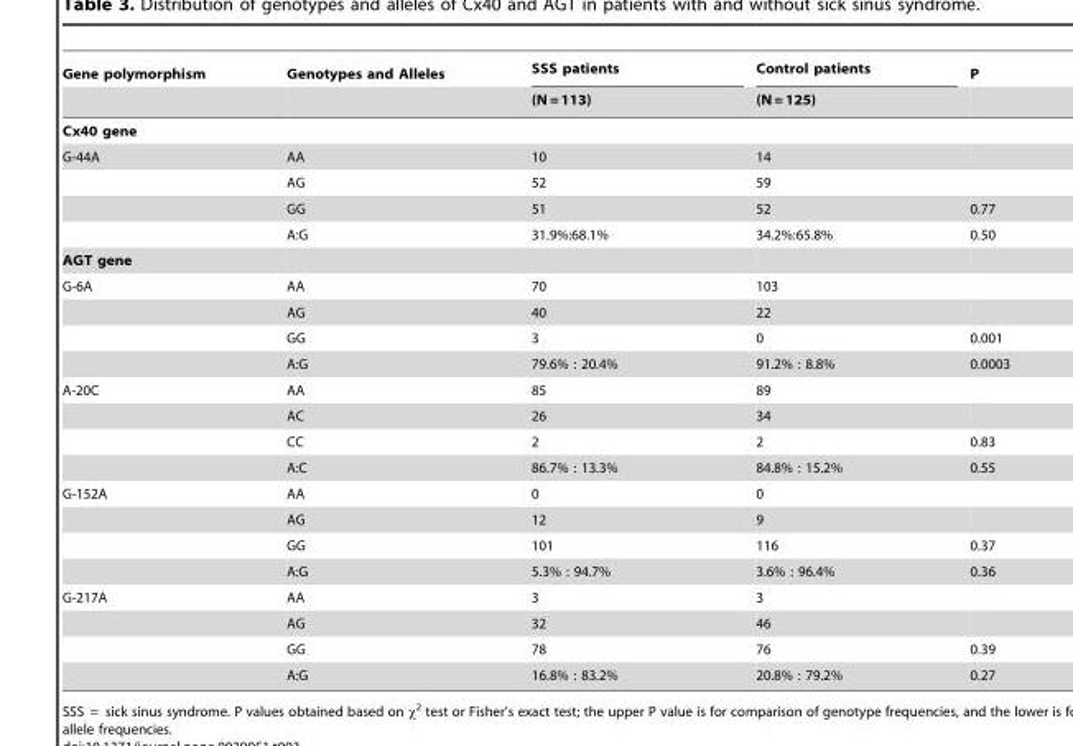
<table><thead><tr><td rowspan="2">Gene polymorphism</td><td rowspan="2">Genotypes and Alleles</td><td rowspan="2">SSS patients (N = 113)</td><td rowspan="2">Control patients (N = 125)</td><td rowspan="2">P</td></tr><tr></tr></thead><tbody><tr><td colspan="5">Cx40 gene</td></tr><tr><td rowspan="4">G-44A</td><td>AA</td><td>10</td><td>14</td><td></td></tr><tr><td>AG</td><td>52</td><td>59</td><td></td></tr><tr><td>GG</td><td>51</td><td>52</td><td>0.77</td></tr><tr><td>A:G</td><td>31.9%:68.1%</td><td>34.2%:65.8%</td><td>0.50</td></tr><tr><td colspan="5">AGT gene</td></tr><tr><td rowspan="4">G-6A</td><td>AA</td><td>70</td><td>103</td><td></td></tr><tr><td>AG</td><td>40</td><td>22</td><td></td></tr><tr><td>GG</td><td>3</td><td>0</td><td>0.001</td></tr><tr><td>A:G</td><td>79.6% : 20.4%</td><td>91.2% : 8.8%</td><td>0.0003</td></tr><tr><td rowspan="4">A-20C</td><td>AA</td><td>85</td><td>89</td><td></td></tr><tr><td>AC</td><td>26</td><td>34</td><td></td></tr><tr><td>CC</td><td>2</td><td>2</td><td>0.83</td></tr><tr><td>A:C</td><td>86.7% : 13.3%</td><td>84.8% : 15.2%</td><td>0.55</td></tr><tr><td rowspan="4">G-152A</td><td>AA</td><td>0</td><td>0</td><td></td></tr><tr><td>AG</td><td>12</td><td>9</td><td></td></tr><tr><td>GG</td><td>101</td><td>116</td><td>0.37</td></tr><tr><td>A:G</td><td>5.3% : 94.7%</td><td>3.6% : 96.4%</td><td>0.36</td></tr><tr><td rowspan="4">G-217A</td><td>AA</td><td>3</td><td>3</td><td></td></tr><tr><td>AG</td><td>32</td><td>46</td><td></td></tr><tr><td>GG</td><td>78</td><td>76</td><td>0.39</td></tr><tr><td>A:G</td><td>16.8% : 83.2%</td><td>20.8% : 79.2%</td><td>0.27</td></tr></tbody></table>